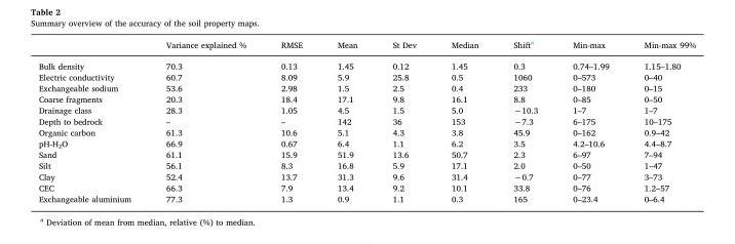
<table><thead><tr><td></td><td>Variance explained %</td><td>RMSE</td><td>Mean</td><td>St Dev</td><td>Median</td><td>Shift<sup>a</sup></td><td>Min-max</td><td>Min-max 99%</td></tr></thead><tbody><tr><td>Bulk density</td><td>70.3</td><td>0.13</td><td>1.45</td><td>0.12</td><td>1.45</td><td>0.3</td><td>0.74–1.99</td><td>1.15–1.80</td></tr><tr><td>Electric conductivity</td><td>60.7</td><td>8.09</td><td>5.9</td><td>25.8</td><td>0.5</td><td>1060</td><td>0–573</td><td>0–40</td></tr><tr><td>Exchangeable sodium</td><td>53.6</td><td>2.98</td><td>1.5</td><td>2.5</td><td>0.4</td><td>233</td><td>0–180</td><td>0–15</td></tr><tr><td>Coarse fragments</td><td>20.3</td><td>18.4</td><td>17.1</td><td>9.8</td><td>16.1</td><td>8.8</td><td>0–85</td><td>0–50</td></tr><tr><td>Drainage class</td><td>28.3</td><td>1.05</td><td>4.5</td><td>1.5</td><td>5.0</td><td>−10.3</td><td>1–7</td><td>1–7</td></tr><tr><td>Depth to bedrock</td><td>–</td><td>–</td><td>142</td><td>36</td><td>153</td><td>−7.3</td><td>6–175</td><td>10–175</td></tr><tr><td>Organic carbon</td><td>61.3</td><td>10.6</td><td>5.1</td><td>4.3</td><td>3.8</td><td>45.9</td><td>0–162</td><td>0.9–42</td></tr><tr><td>pH-H<sub>2</sub>O</td><td>66.9</td><td>0.67</td><td>6.4</td><td>1.1</td><td>6.2</td><td>3.5</td><td>4.2–10.6</td><td>4.4–8.7</td></tr><tr><td>Sand</td><td>61.1</td><td>15.9</td><td>51.9</td><td>13.6</td><td>50.7</td><td>2.3</td><td>6–97</td><td>7–94</td></tr><tr><td>Silt</td><td>56.1</td><td>8.3</td><td>16.8</td><td>5.9</td><td>17.1</td><td>2.0</td><td>0–50</td><td>1–47</td></tr><tr><td>Clay</td><td>52.4</td><td>13.7</td><td>31.3</td><td>9.6</td><td>31.4</td><td>−0.7</td><td>0–77</td><td>3–73</td></tr><tr><td>CEC</td><td>66.3</td><td>7.9</td><td>13.4</td><td>9.2</td><td>10.1</td><td>33.8</td><td>0–76</td><td>1.2–57</td></tr><tr><td>Exchangeable aluminium</td><td>77.3</td><td>1.3</td><td>0.9</td><td>1.1</td><td>0.3</td><td>165</td><td>0–23.4</td><td>0–6.4</td></tr></tbody></table>